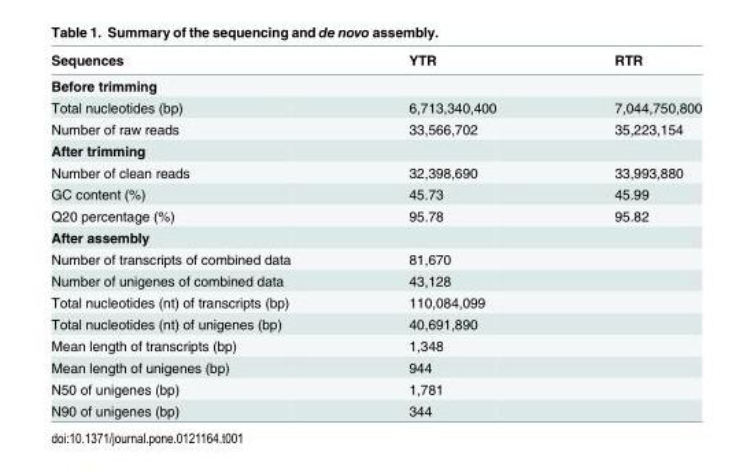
<table><thead><tr><td>Sequences</td><td>YTR</td><td>RTR</td></tr></thead><tbody><tr><td colspan="3">Before trimming</td></tr><tr><td>Total nucleotides (bp)</td><td>6,713,340,400</td><td>7,044,750,800</td></tr><tr><td>Number of raw reads</td><td>33,566,702</td><td>35,223,154</td></tr><tr><td colspan="3">After trimming</td></tr><tr><td>Number of clean reads</td><td>32,398,690</td><td>33,993,880</td></tr><tr><td>GC content (%)</td><td>45.73</td><td>45.99</td></tr><tr><td>Q20 percentage (%)</td><td>95.78</td><td>95.82</td></tr><tr><td colspan="3">After assembly</td></tr><tr><td>Number of transcripts of combined data</td><td>81,670</td><td></td></tr><tr><td>Number of unigenes of combined data</td><td>43,128</td><td></td></tr><tr><td>Total nucleotides (nt) of transcripts (bp)</td><td>110,084,099</td><td></td></tr><tr><td>Total nucleotides (nt) of unigenes (bp)</td><td>40,691,890</td><td></td></tr><tr><td>Mean length of transcripts (bp)</td><td>1,348</td><td></td></tr><tr><td>Mean length of unigenes (bp)</td><td>944</td><td></td></tr><tr><td>N50 of unigenes (bp)</td><td>1,781</td><td></td></tr><tr><td>N90 of unigenes (bp)</td><td>344</td><td></td></tr></tbody></table>